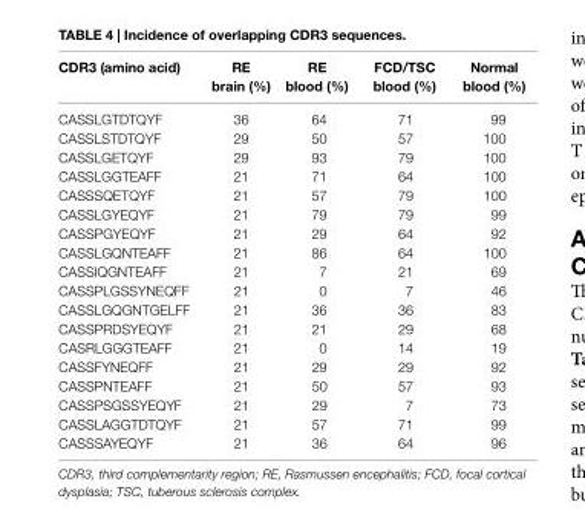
<table><thead><tr><td>cDr3 (amino acid)</td><td>re brain (%)</td><td>re blood (%)</td><td>FcD/Tsc blood (%)</td><td>normal blood (%)</td></tr></thead><tbody><tr><td>CASSLGTDTQYF</td><td>36</td><td>64</td><td>71</td><td>99</td></tr><tr><td>CASSLSTDTQYF</td><td>29</td><td>50</td><td>57</td><td>100</td></tr><tr><td>CASSLGETQYF</td><td>29</td><td>93</td><td>79</td><td>100</td></tr><tr><td>CASSLGGTEAFF</td><td>21</td><td>71</td><td>64</td><td>100</td></tr><tr><td>CASSSQETQYF</td><td>21</td><td>57</td><td>79</td><td>100</td></tr><tr><td>CASSLGYEQYF</td><td>21</td><td>79</td><td>79</td><td>99</td></tr><tr><td>CASSPGYEQYF</td><td>21</td><td>29</td><td>64</td><td>92</td></tr><tr><td>CASSLGQNTEAFF</td><td>21</td><td>86</td><td>64</td><td>100</td></tr><tr><td>CASSIQGNTEAFF</td><td>21</td><td>7</td><td>21</td><td>69</td></tr><tr><td>CASSPLGSSYNEQFF</td><td>21</td><td>0</td><td>7</td><td>46</td></tr><tr><td>CASSLGQGNTGELFF</td><td>21</td><td>36</td><td>36</td><td>83</td></tr><tr><td>CASSPRDSYEQYF</td><td>21</td><td>21</td><td>29</td><td>68</td></tr><tr><td>CASRLGGGTEAFF</td><td>21</td><td>0</td><td>14</td><td>19</td></tr><tr><td>CASSFYNEQFF</td><td>21</td><td>29</td><td>29</td><td>92</td></tr><tr><td>CASSPNTEAFF</td><td>21</td><td>50</td><td>57</td><td>93</td></tr><tr><td>CASSPSGSSYEQYF</td><td>21</td><td>29</td><td>7</td><td>73</td></tr><tr><td>CASSLAGGTDTQYF</td><td>21</td><td>57</td><td>71</td><td>99</td></tr><tr><td>CASSSAYEQYF</td><td>21</td><td>36</td><td>64</td><td>96</td></tr></tbody></table>